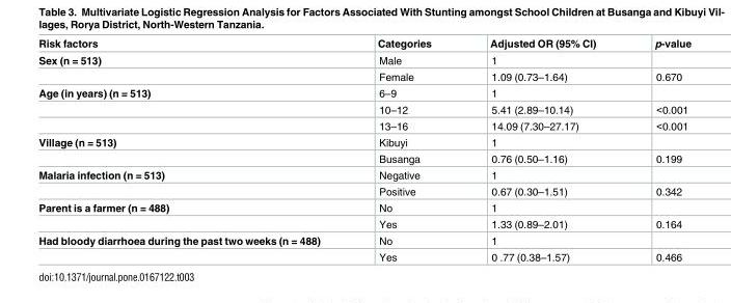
<table><thead><tr><td>Risk factors</td><td>Categories</td><td>Adjusted OR (95% CI)</td><td>p-value</td></tr></thead><tbody><tr><td rowspan="2">Sex (n = 513)</td><td>Male</td><td>1</td><td></td></tr><tr><td>Female</td><td>1.09 (0.73–1.64)</td><td>0.670</td></tr><tr><td rowspan="3">Age (in years) (n = 513)</td><td>6–9</td><td>1</td><td></td></tr><tr><td>10–12</td><td>5.41 (2.89–10.14)</td><td>&lt;0.001</td></tr><tr><td>13–16</td><td>14.09 (7.30–27.17)</td><td>&lt;0.001</td></tr><tr><td rowspan="2">Village (n = 513)</td><td>Kibuyi</td><td>1</td><td></td></tr><tr><td>Busanga</td><td>0.76 (0.50–1.16)</td><td>0.199</td></tr><tr><td rowspan="2">Malaria infection (n = 513)</td><td>Negative</td><td>1</td><td></td></tr><tr><td>Positive</td><td>0.67 (0.30–1.51)</td><td>0.342</td></tr><tr><td rowspan="2">Parent is a farmer (n = 488)</td><td>No</td><td>1</td><td></td></tr><tr><td>Yes</td><td>1.33 (0.89–2.01)</td><td>0.164</td></tr><tr><td rowspan="2">Had bloody diarrhoea during the past two weeks (n = 488)</td><td>No</td><td>1</td><td></td></tr><tr><td>Yes</td><td>0 .77 (0.38–1.57)</td><td>0.466</td></tr></tbody></table>